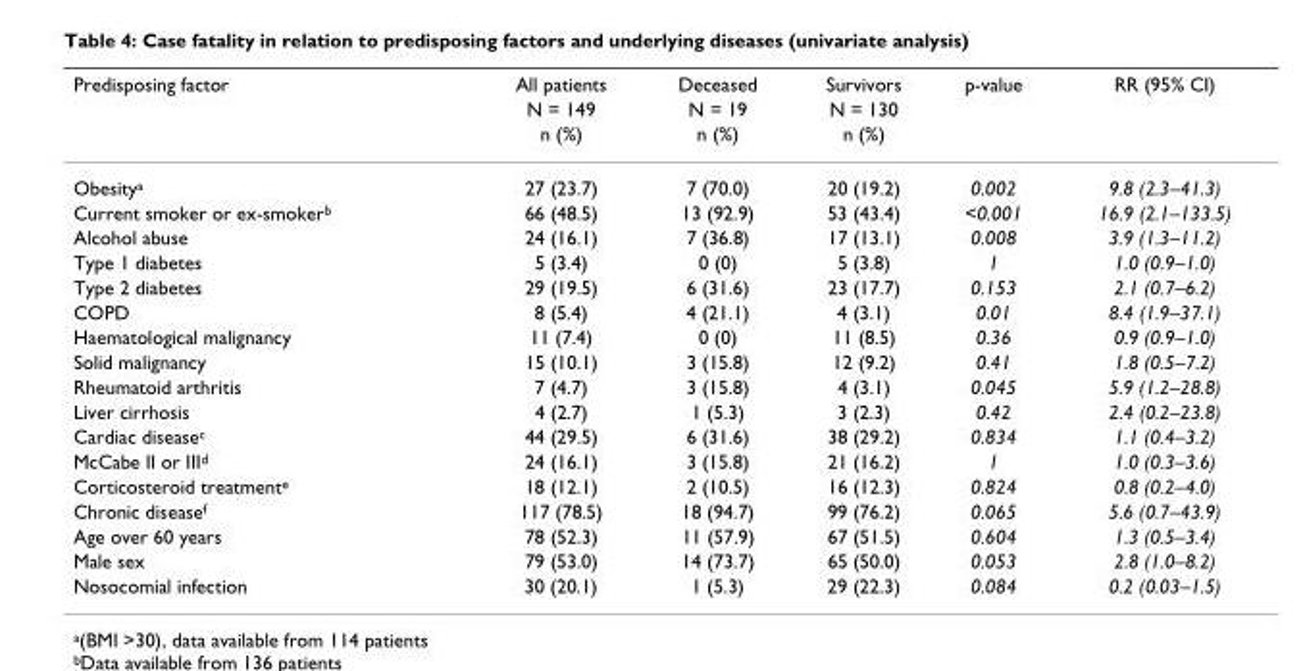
<table><thead><tr><td rowspan="3">Predisposing factor</td><td rowspan="3">All patients N = 149 n (%)</td><td rowspan="3">Deceased N = 19 n (%)</td><td rowspan="3">Survivors N = 130 n (%)</td><td rowspan="3">p-value</td><td rowspan="3">RR (95% CI)</td></tr><tr></tr><tr></tr></thead><tbody><tr><td>Obesity<sup>a</sup></td><td>27 (23.7)</td><td>7 (70.0)</td><td>20 (19.2)</td><td>0.002</td><td>9.8 (2.3–41.3)</td></tr><tr><td>Current smoker or ex-smoker<sup>b</sup></td><td>66 (48.5)</td><td>13 (92.9)</td><td>53 (43.4)</td><td>&lt;0.001</td><td>16.9 (2.1–133.5)</td></tr><tr><td>Alcohol abuse</td><td>24 (16.1)</td><td>7 (36.8)</td><td>17 (13.1)</td><td>0.008</td><td>3.9 (1.3–11.2)</td></tr><tr><td>Type 1 diabetes</td><td>5 (3.4)</td><td>0 (0)</td><td>5 (3.8)</td><td>1</td><td>1.0 (0.9–1.0)</td></tr><tr><td>Type 2 diabetes</td><td>29 (19.5)</td><td>6 (31.6)</td><td>23 (17.7)</td><td>0.153</td><td>2.1 (0.7–6.2)</td></tr><tr><td>COPD</td><td>8 (5.4)</td><td>4 (21.1)</td><td>4 (3.1)</td><td>0.01</td><td>8.4 (1.9–37.1)</td></tr><tr><td>Haematological malignancy</td><td>11 (7.4)</td><td>0 (0)</td><td>11 (8.5)</td><td>0.36</td><td>0.9 (0.9–1.0)</td></tr><tr><td>Solid malignancy</td><td>15 (10.1)</td><td>3 (15.8)</td><td>12 (9.2)</td><td>0.41</td><td>1.8 (0.5–7.2)</td></tr><tr><td>Rheumatoid arthritis</td><td>7 (4.7)</td><td>3 (15.8)</td><td>4 (3.1)</td><td>0.045</td><td>5.9 (1.2–28.8)</td></tr><tr><td>Liver cirrhosis</td><td>4 (2.7)</td><td>1 (5.3)</td><td>3 (2.3)</td><td>0.42</td><td>2.4 (0.2–23.8)</td></tr><tr><td>Cardiac disease<sup>c</sup></td><td>44 (29.5)</td><td>6 (31.6)</td><td>38 (29.2)</td><td>0.834</td><td>1.1 (0.4–3.2)</td></tr><tr><td>McCabe II or III<sup>d</sup></td><td>24 (16.1)</td><td>3 (15.8)</td><td>21 (16.2)</td><td>1</td><td>1.0 (0.3–3.6)</td></tr><tr><td>Corticosteroid treatment<sup>e</sup></td><td>18 (12.1)</td><td>2 (10.5)</td><td>16 (12.3)</td><td>0.824</td><td>0.8 (0.2–4.0)</td></tr><tr><td>Chronic disease<sup>f</sup></td><td>117 (78.5)</td><td>18 (94.7)</td><td>99 (76.2)</td><td>0.065</td><td>5.6 (0.7–43.9)</td></tr><tr><td>Age over 60 years</td><td>78 (52.3)</td><td>11 (57.9)</td><td>67 (51.5)</td><td>0.604</td><td>1.3 (0.5–3.4)</td></tr><tr><td>Male sex</td><td>79 (53.0)</td><td>14 (73.7)</td><td>65 (50.0)</td><td>0.053</td><td>2.8 (1.0–8.2)</td></tr><tr><td>Nosocomial infection</td><td>30 (20.1)</td><td>1 (5.3)</td><td>29 (22.3)</td><td>0.084</td><td>0.2 (0.03–1.5)</td></tr></tbody></table>